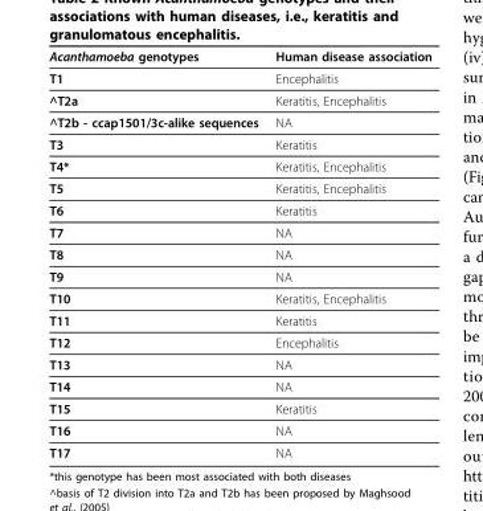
<table><thead><tr><td>Acanthamoeba genotypes</td><td>Human disease association</td></tr></thead><tbody><tr><td>T1</td><td>Encephalitis</td></tr><tr><td>^T2a</td><td>Keratitis, Encephalitis</td></tr><tr><td>^T2b - ccap1501/3c-alike sequences</td><td>NA</td></tr><tr><td>T3</td><td>Keratitis</td></tr><tr><td>T4*</td><td>Keratitis, Encephalitis</td></tr><tr><td>T5</td><td>Keratitis, Encephalitis</td></tr><tr><td>T6</td><td>Keratitis</td></tr><tr><td>T7</td><td>NA</td></tr><tr><td>T8</td><td>NA</td></tr><tr><td>T9</td><td>NA</td></tr><tr><td>T10</td><td>Keratitis, Encephalitis</td></tr><tr><td>T11</td><td>Keratitis</td></tr><tr><td>T12</td><td>Encephalitis</td></tr><tr><td>T13</td><td>NA</td></tr><tr><td>T14</td><td>NA</td></tr><tr><td>T15</td><td>Keratitis</td></tr><tr><td>T16</td><td>NA</td></tr><tr><td>T17</td><td>NA</td></tr></tbody></table>